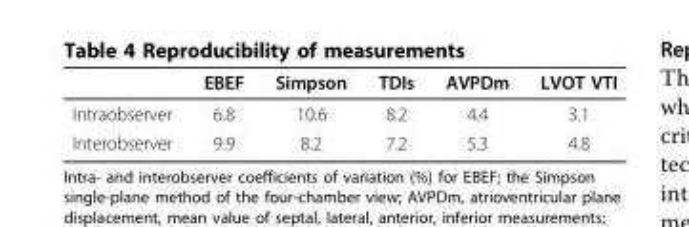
<table><thead><tr><td></td><td>EBEF</td><td>Simpson</td><td>TDIs</td><td>AVPDm</td><td>LVOT VTI</td></tr></thead><tbody><tr><td>Intraobserver</td><td>6.8</td><td>10.6</td><td>8.2</td><td>4.4</td><td>3.1</td></tr><tr><td>Interobserver</td><td>9.9</td><td>8.2</td><td>7.2</td><td>5.3</td><td>4.8</td></tr></tbody></table>